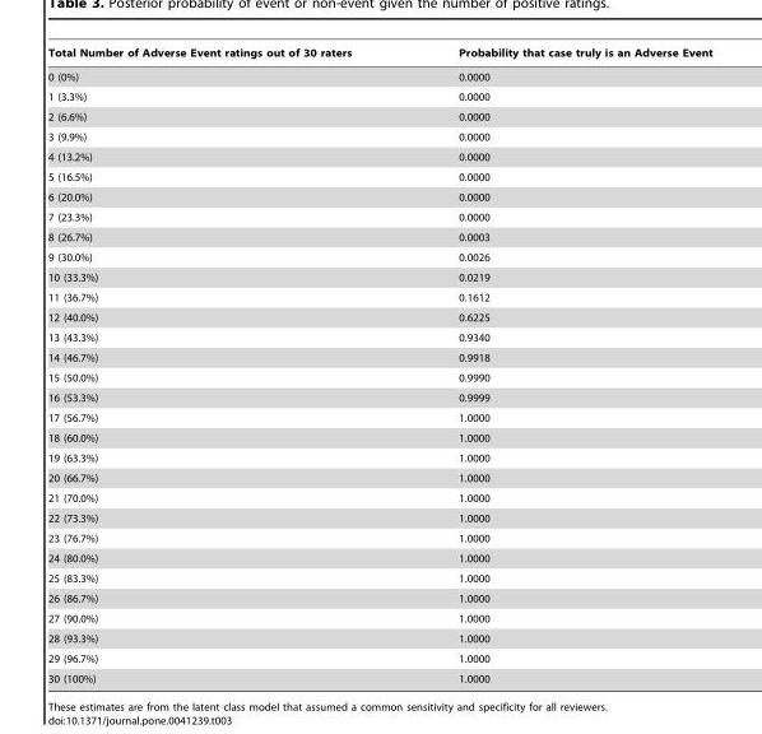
<table><thead><tr><td>Total Number of Adverse Event ratings out of 30 raters</td><td>Probability that case truly is an Adverse Event</td></tr></thead><tbody><tr><td>0 (0%)</td><td>0.0000</td></tr><tr><td>1 (3.3%)</td><td>0.0000</td></tr><tr><td>2 (6.6%)</td><td>0.0000</td></tr><tr><td>3 (9.9%)</td><td>0.0000</td></tr><tr><td>4 (13.2%)</td><td>0.0000</td></tr><tr><td>5 (16.5%)</td><td>0.0000</td></tr><tr><td>6 (20.0%)</td><td>0.0000</td></tr><tr><td>7 (23.3%)</td><td>0.0000</td></tr><tr><td>8 (26.7%)</td><td>0.0003</td></tr><tr><td>9 (30.0%)</td><td>0.0026</td></tr><tr><td>10 (33.3%)</td><td>0.0219</td></tr><tr><td>11 (36.7%)</td><td>0.1612</td></tr><tr><td>12 (40.0%)</td><td>0.6225</td></tr><tr><td>13 (43.3%)</td><td>0.9340</td></tr><tr><td>14 (46.7%)</td><td>0.9918</td></tr><tr><td>15 (50.0%)</td><td>0.9990</td></tr><tr><td>16 (53.3%)</td><td>0.9999</td></tr><tr><td>17 (56.7%)</td><td>1.0000</td></tr><tr><td>18 (60.0%)</td><td>1.0000</td></tr><tr><td>19 (63.3%)</td><td>1.0000</td></tr><tr><td>20 (66.7%)</td><td>1.0000</td></tr><tr><td>21 (70.0%)</td><td>1.0000</td></tr><tr><td>22 (73.3%)</td><td>1.0000</td></tr><tr><td>23 (76.7%)</td><td>1.0000</td></tr><tr><td>24 (80.0%)</td><td>1.0000</td></tr><tr><td>25 (83.3%)</td><td>1.0000</td></tr><tr><td>26 (86.7%)</td><td>1.0000</td></tr><tr><td>27 (90.0%)</td><td>1.0000</td></tr><tr><td>28 (93.3%)</td><td>1.0000</td></tr><tr><td>29 (96.7%)</td><td>1.0000</td></tr><tr><td>30 (100%)</td><td>1.0000</td></tr></tbody></table>